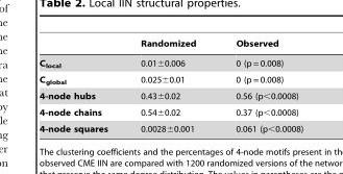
<table><thead><tr><td></td><td>Randomized</td><td>Observed</td></tr></thead><tbody><tr><td>C<sub>local</sub></td><td>0.01±0.006</td><td>0 (p = 0.008)</td></tr><tr><td>C<sub>global</sub></td><td>0.025±0.01</td><td>0 (p = 0.008)</td></tr><tr><td>4-node hubs</td><td>0.43±0.02</td><td>0.56 (p&lt;0.0008)</td></tr><tr><td>4-node chains</td><td>0.54±0.02</td><td>0.37 (p&lt;0.0008)</td></tr><tr><td>4-node squares</td><td>0.0028±0.001</td><td>0.061 (p&lt;0.0008)</td></tr></tbody></table>